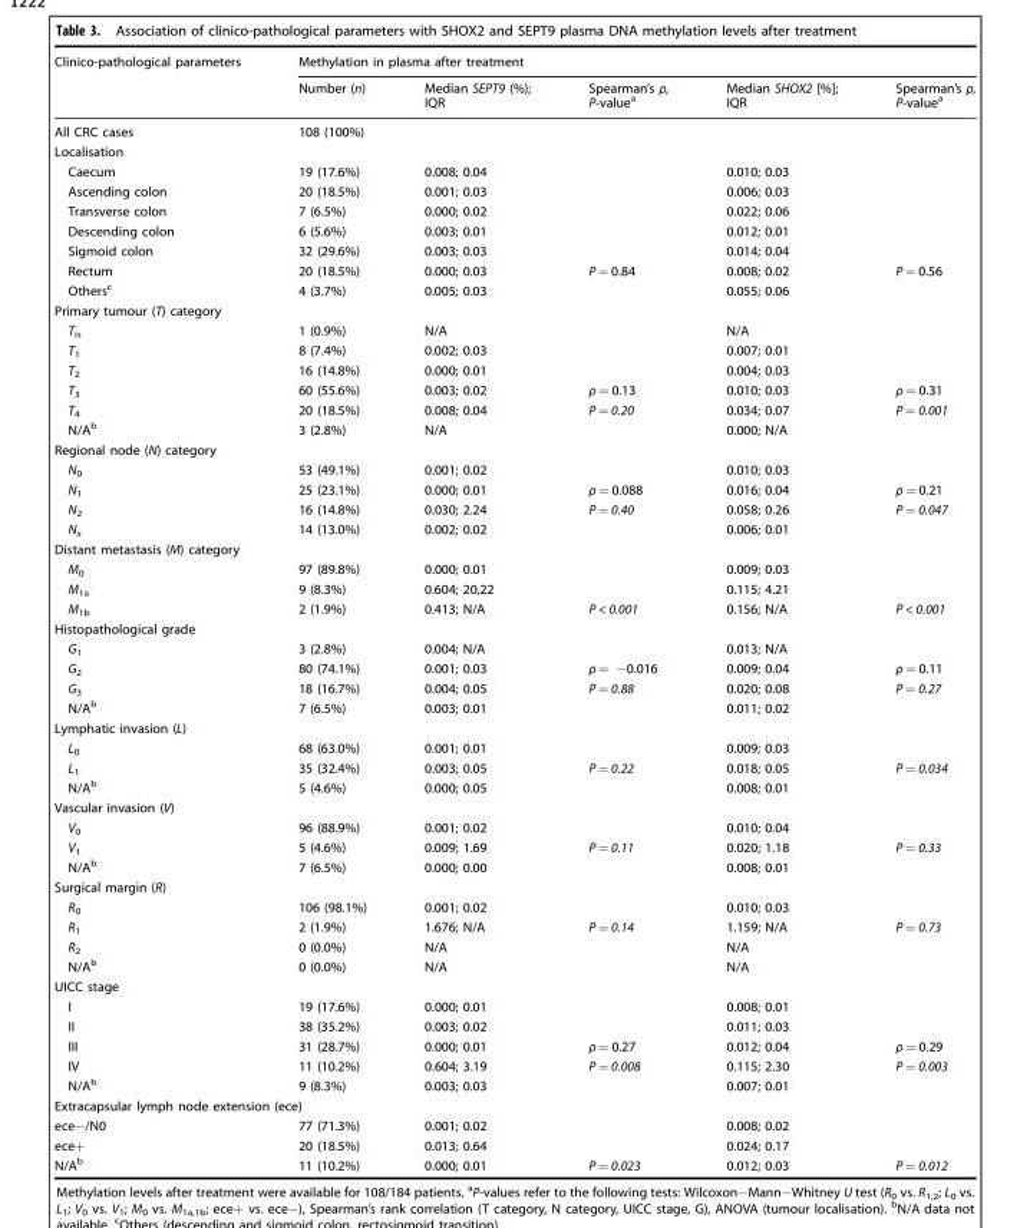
<table><thead><tr><td rowspan="2">Clinico-pathological parameters</td><td colspan="5">Methylation in plasma after treatment</td></tr><tr><td>Number (n)</td><td>Median SEPT9 (%); IQR</td><td>Spearman’s ρ, P-value<sup>a</sup></td><td>Median SHOX2 [%]; IQR</td><td>Spearman’s ρ, P-value<sup>a</sup></td></tr></thead><tbody><tr><td>All CRC cases</td><td>108 (100%)</td><td></td><td></td><td></td><td></td></tr><tr><td colspan="6">Localisation</td></tr><tr><td>Caecum</td><td>19 (17.6%)</td><td>0.008; 0.04</td><td></td><td>0.010; 0.03</td><td></td></tr><tr><td>Ascending colon</td><td>20 (18.5%)</td><td>0.001; 0.03</td><td></td><td>0.006; 0.03</td><td></td></tr><tr><td>Transverse colon</td><td>7 (6.5%)</td><td>0.000; 0.02</td><td></td><td>0.022; 0.06</td><td></td></tr><tr><td>Descending colon</td><td>6 (5.6%)</td><td>0.003; 0.01</td><td></td><td>0.012; 0.01</td><td></td></tr><tr><td>Sigmoid colon</td><td>32 (29.6%)</td><td>0.003; 0.03</td><td></td><td>0.014; 0.04</td><td></td></tr><tr><td>Rectum</td><td>20 (18.5%)</td><td>0.000; 0.03</td><td>P = 0.84</td><td>0.008; 0.02</td><td>P = 0.56</td></tr><tr><td>Others<sup>c</sup></td><td>4 (3.7%)</td><td>0.005; 0.03</td><td></td><td>0.055; 0.06</td><td></td></tr><tr><td colspan="6">Primary tumour (T) category</td></tr><tr><td>T<sub>is</sub></td><td>1 (0.9%)</td><td>N/A</td><td></td><td>N/A</td><td></td></tr><tr><td>T<sub>1</sub></td><td>8 (7.4%)</td><td>0.002; 0.03</td><td></td><td>0.007; 0.01</td><td></td></tr><tr><td>T<sub>2</sub></td><td>16 (14.8%)</td><td>0.000; 0.01</td><td></td><td>0.004; 0.03</td><td></td></tr><tr><td>T<sub>3</sub></td><td>60 (55.6%)</td><td>0.003; 0.02</td><td>ρ = 0.13</td><td>0.010; 0.03</td><td>ρ = 0.31</td></tr><tr><td>T<sub>4</sub></td><td>20 (18.5%)</td><td>0.008; 0.04</td><td>P = 0.20</td><td>0.034; 0.07</td><td>P = 0.001</td></tr><tr><td>N/A<sup>b</sup></td><td>3 (2.8%)</td><td>N/A</td><td></td><td>0.000; N/A</td><td></td></tr><tr><td colspan="6">Regional node (N) category</td></tr><tr><td>N<sub>0</sub></td><td>53 (49.1%)</td><td>0.001; 0.02</td><td></td><td>0.010; 0.03</td><td></td></tr><tr><td>N<sub>1</sub></td><td>25 (23.1%)</td><td>0.000; 0.01</td><td>ρ = 0.088</td><td>0.016; 0.04</td><td>ρ = 0.21</td></tr><tr><td>N<sub>2</sub></td><td>16 (14.8%)</td><td>0.030; 2.24</td><td>P = 0.40</td><td>0.058; 0.26</td><td>P = 0.047</td></tr><tr><td>N<sub>x</sub></td><td>14 (13.0%)</td><td>0.002; 0.02</td><td></td><td>0.006; 0.01</td><td></td></tr><tr><td colspan="6">Distant metastasis (M) category</td></tr><tr><td>M<sub>0</sub></td><td>97 (89.8%)</td><td>0.000; 0.01</td><td></td><td>0.009; 0.03</td><td></td></tr><tr><td>M<sub>1a</sub></td><td>9 (8.3%)</td><td>0.604; 20,22</td><td></td><td>0.115; 4.21</td><td></td></tr><tr><td>M<sub>1b</sub></td><td>2 (1.9%)</td><td>0.413; N/A</td><td>P &lt; 0.001</td><td>0.156; N/A</td><td>P &lt; 0.001</td></tr><tr><td colspan="6">Histopathological grade</td></tr><tr><td>G<sub>1</sub></td><td>3 (2.8%)</td><td>0.004; N/A</td><td></td><td>0.013; N/A</td><td></td></tr><tr><td>G<sub>2</sub></td><td>80 (74.1%)</td><td>0.001; 0.03</td><td>ρ = −0.016</td><td>0.009; 0.04</td><td>ρ = 0.11</td></tr><tr><td>G<sub>3</sub></td><td>18 (16.7%)</td><td>0.004; 0.05</td><td>P = 0.88</td><td>0.020; 0.08</td><td>P = 0.27</td></tr><tr><td>N/A<sup>b</sup></td><td>7 (6.5%)</td><td>0.003; 0.01</td><td></td><td>0.011; 0.02</td><td></td></tr><tr><td colspan="6">Lymphatic invasion (L)</td></tr><tr><td>L<sub>0</sub></td><td>68 (63.0%)</td><td>0.001; 0.01</td><td></td><td>0.009; 0.03</td><td></td></tr><tr><td>L<sub>1</sub></td><td>35 (32.4%)</td><td>0.003; 0.05</td><td>P = 0.22</td><td>0.018; 0.05</td><td>P = 0.034</td></tr><tr><td>N/A<sup>b</sup></td><td>5 (4.6%)</td><td>0.000; 0.05</td><td></td><td>0.008; 0.01</td><td></td></tr><tr><td colspan="6">Vascular invasion (V)</td></tr><tr><td>V<sub>0</sub></td><td>96 (88.9%)</td><td>0.001; 0.02</td><td></td><td>0.010; 0.04</td><td></td></tr><tr><td>V<sub>1</sub></td><td>5 (4.6%)</td><td>0.009; 1.69</td><td>P = 0.11</td><td>0.020; 1.18</td><td>P = 0.33</td></tr><tr><td>N/A<sup>b</sup></td><td>7 (6.5%)</td><td>0.000; 0.00</td><td></td><td>0.008; 0.01</td><td></td></tr><tr><td colspan="6">Surgical margin (R)</td></tr><tr><td>R<sub>0</sub></td><td>106 (98.1%)</td><td>0.001; 0.02</td><td></td><td>0.010; 0.03</td><td></td></tr><tr><td>R<sub>1</sub></td><td>2 (1.9%)</td><td>1.676; N/A</td><td>P = 0.14</td><td>1.159; N/A</td><td>P = 0.73</td></tr><tr><td>R<sub>2</sub></td><td>0 (0.0%)</td><td>N/A</td><td></td><td>N/A</td><td></td></tr><tr><td>N/A<sup>b</sup></td><td>0 (0.0%)</td><td>N/A</td><td></td><td>N/A</td><td></td></tr><tr><td colspan="6">UICC stage</td></tr><tr><td>I</td><td>19 (17.6%)</td><td>0.000; 0.01</td><td></td><td>0.008; 0.01</td><td></td></tr><tr><td>II</td><td>38 (35.2%)</td><td>0.003; 0.02</td><td></td><td>0.011; 0.03</td><td></td></tr><tr><td>III</td><td>31 (28.7%)</td><td>0.000; 0.01</td><td>ρ = 0.27</td><td>0.012; 0.04</td><td>ρ = 0.29</td></tr><tr><td>IV</td><td>11 (10.2%)</td><td>0.604; 3.19</td><td>P = 0.008</td><td>0.115; 2.30</td><td>P = 0.003</td></tr><tr><td>N/A<sup>b</sup></td><td>9 (8.3%)</td><td>0.003; 0.03</td><td></td><td>0.007; 0.01</td><td></td></tr><tr><td colspan="6">Extracapsular lymph node extension (ece)</td></tr><tr><td>ece−/N0</td><td>77 (71.3%)</td><td>0.001; 0.02</td><td></td><td>0.008; 0.02</td><td></td></tr><tr><td>ece+</td><td>20 (18.5%)</td><td>0.013; 0.64</td><td></td><td>0.024; 0.17</td><td></td></tr><tr><td>N/A<sup>b</sup></td><td>11 (10.2%)</td><td>0.000; 0.01</td><td>P = 0.023</td><td>0.012; 0.03</td><td>P = 0.012</td></tr></tbody></table>